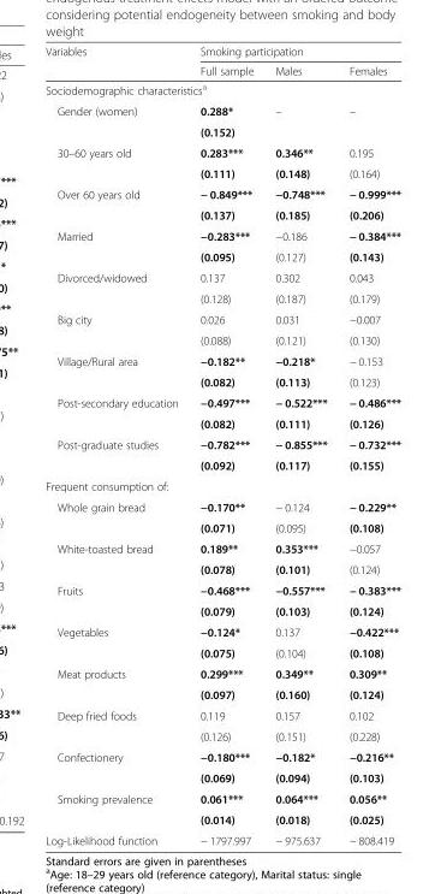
<table><thead><tr><td rowspan="2">Variables</td><td colspan="3">Smoking participation</td></tr><tr><td>Full sample</td><td>Males</td><td>Females</td></tr></thead><tbody><tr><td colspan="4">Sociodemographic characteristics<sup>a</sup></td></tr><tr><td rowspan="2">Gender (women)</td><td>0.288*</td><td>–</td><td>–</td></tr><tr><td>(0.152)</td><td></td><td></td></tr><tr><td rowspan="2">30–60 years old</td><td>0.283***</td><td>0.346**</td><td>0.195</td></tr><tr><td>(0.111)</td><td>(0.148)</td><td>(0.164)</td></tr><tr><td rowspan="2">Over 60 years old</td><td>− 0.849***</td><td>−0.748***</td><td>− 0.999***</td></tr><tr><td>(0.137)</td><td>(0.185)</td><td>(0.206)</td></tr><tr><td rowspan="2">Married</td><td>−0.283***</td><td>−0.186</td><td>− 0.384***</td></tr><tr><td>(0.095)</td><td>(0.127)</td><td>(0.143)</td></tr><tr><td rowspan="2">Divorced/widowed</td><td>0.137</td><td>0.302</td><td>0.043</td></tr><tr><td>(0.128)</td><td>(0.187)</td><td>(0.179)</td></tr><tr><td rowspan="2">Big city</td><td>0.026</td><td>0.031</td><td>−0.007</td></tr><tr><td>(0.088)</td><td>(0.121)</td><td>(0.130)</td></tr><tr><td rowspan="2">Village/Rural area</td><td>−0.182**</td><td>−0.218*</td><td>− 0.153</td></tr><tr><td>(0.082)</td><td>(0.113)</td><td>(0.123)</td></tr><tr><td rowspan="2">Post-secondary education</td><td>−0.497***</td><td>− 0.522***</td><td>− 0.486***</td></tr><tr><td>(0.082)</td><td>(0.111)</td><td>(0.126)</td></tr><tr><td rowspan="2">Post-graduate studies</td><td>−0.782***</td><td>− 0.855***</td><td>− 0.732***</td></tr><tr><td>(0.092)</td><td>(0.117)</td><td>(0.155)</td></tr><tr><td colspan="4">Frequent consumption of:</td></tr><tr><td rowspan="2">Whole grain bread</td><td>−0.170**</td><td>− 0.124</td><td>− 0.229**</td></tr><tr><td>(0.071)</td><td>(0.095)</td><td>(0.108)</td></tr><tr><td rowspan="2">White-toasted bread</td><td>0.189**</td><td>0.353***</td><td>−0.057</td></tr><tr><td>(0.078)</td><td>(0.101)</td><td>(0.124)</td></tr><tr><td rowspan="2">Fruits</td><td>−0.468***</td><td>−0.557***</td><td>− 0.383***</td></tr><tr><td>(0.079)</td><td>(0.103)</td><td>(0.124)</td></tr><tr><td rowspan="2">Vegetables</td><td>−0.124*</td><td>0.137</td><td>−0.422***</td></tr><tr><td>(0.075)</td><td>(0.104)</td><td>(0.108)</td></tr><tr><td rowspan="2">Meat products</td><td>0.299***</td><td>0.349**</td><td>0.309**</td></tr><tr><td>(0.097)</td><td>(0.160)</td><td>(0.124)</td></tr><tr><td rowspan="2">Deep fried foods</td><td>0.119</td><td>0.157</td><td>0.102</td></tr><tr><td>(0.126)</td><td>(0.151)</td><td>(0.228)</td></tr><tr><td rowspan="2">Confectionery</td><td>−0.180***</td><td>−0.182*</td><td>−0.216**</td></tr><tr><td>(0.069)</td><td>(0.094)</td><td>(0.103)</td></tr><tr><td rowspan="2">Smoking prevalence</td><td>0.061***</td><td>0.064***</td><td>0.056**</td></tr><tr><td>(0.014)</td><td>(0.018)</td><td>(0.025)</td></tr><tr><td>Log-Likelihood function</td><td>− 1797.997</td><td>− 975.637</td><td>− 808.419</td></tr></tbody></table>